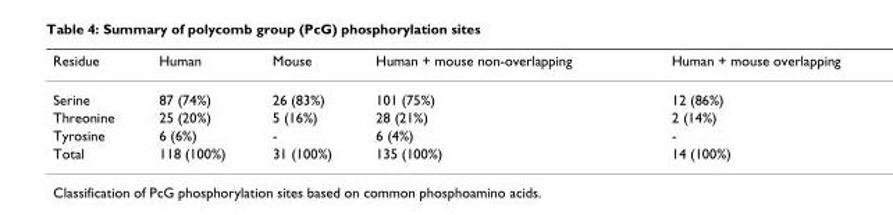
<table><thead><tr><td>Residue</td><td>Human</td><td>Mouse</td><td>Human + mouse non-overlapping</td><td>Human + mouse overlapping</td></tr></thead><tbody><tr><td>Serine</td><td>87 (74%)</td><td>26 (83%)</td><td>101 (75%)</td><td>12 (86%)</td></tr><tr><td>Threonine</td><td>25 (20%)</td><td>5 (16%)</td><td>28 (21%)</td><td>2 (14%)</td></tr><tr><td>Tyrosine</td><td>6 (6%)</td><td>-</td><td>6 (4%)</td><td>-</td></tr><tr><td>Total</td><td>118 (100%)</td><td>31 (100%)</td><td>135 (100%)</td><td>14 (100%)</td></tr></tbody></table>